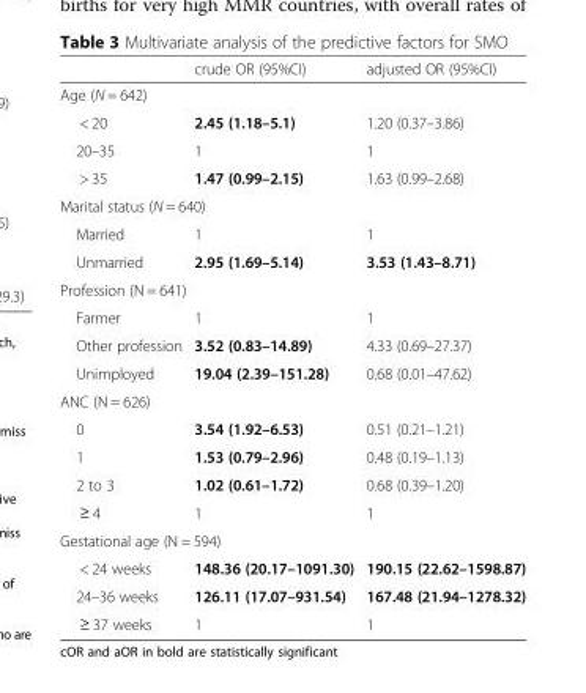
<table><thead><tr><td></td><td>crude OR (95%CI)</td><td>adjusted OR (95%CI)</td></tr></thead><tbody><tr><td colspan="3">Age (N = 642)</td></tr><tr><td>&lt; 20</td><td>2.45 (1.18–5.1)</td><td>1.20 (0.37–3.86)</td></tr><tr><td>20–35</td><td>1</td><td>1</td></tr><tr><td>&gt; 35</td><td>1.47 (0.99–2.15)</td><td>1.63 (0.99–2.68)</td></tr><tr><td colspan="3">Marital status (N = 640)</td></tr><tr><td>Married</td><td>1</td><td>1</td></tr><tr><td>Unmarried</td><td>2.95 (1.69–5.14)</td><td>3.53 (1.43–8.71)</td></tr><tr><td colspan="3">Profession (N = 641)</td></tr><tr><td>Farmer</td><td>1</td><td>1</td></tr><tr><td>Other profession</td><td>3.52 (0.83–14.89)</td><td>4.33 (0.69–27.37)</td></tr><tr><td>Unimployed</td><td>19.04 (2.39–151.28)</td><td>0.68 (0.01–47.62)</td></tr><tr><td colspan="3">ANC (N = 626)</td></tr><tr><td>0</td><td>3.54 (1.92–6.53)</td><td>0.51 (0.21–1.21)</td></tr><tr><td>1</td><td>1.53 (0.79–2.96)</td><td>0.48 (0.19–1.13)</td></tr><tr><td>2 to 3</td><td>1.02 (0.61–1.72)</td><td>0.68 (0.39–1.20)</td></tr><tr><td>≥ 4</td><td>1</td><td>1</td></tr><tr><td colspan="3">Gestational age (N = 594)</td></tr><tr><td>&lt; 24 weeks</td><td>148.36 (20.17–1091.30)</td><td>190.15 (22.62–1598.87)</td></tr><tr><td>24–36 weeks</td><td>126.11 (17.07–931.54)</td><td>167.48 (21.94–1278.32)</td></tr><tr><td>≥ 37 weeks</td><td>1</td><td>1</td></tr></tbody></table>